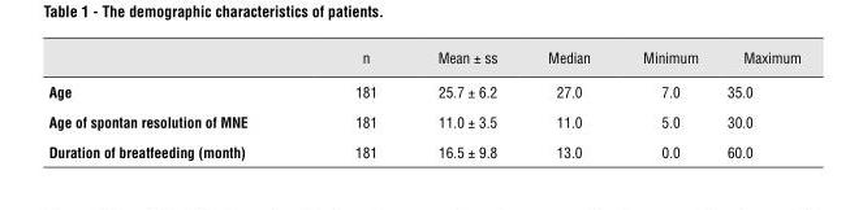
<table><thead><tr><td></td><td>n</td><td>Mean ± ss</td><td>Median</td><td>Minimum</td><td>Maximum</td></tr></thead><tbody><tr><td>Age</td><td>181</td><td>25.7 ± 6.2</td><td>27.0</td><td>7.0</td><td>35.0</td></tr><tr><td>Age of spontan resolution of MnE</td><td>181</td><td>11.0 ± 3.5</td><td>11.0</td><td>5.0</td><td>30.0</td></tr><tr><td>Duration of breatfeeding (month)</td><td>181</td><td>16.5 ± 9.8</td><td>13.0</td><td>0.0</td><td>60.0</td></tr></tbody></table>